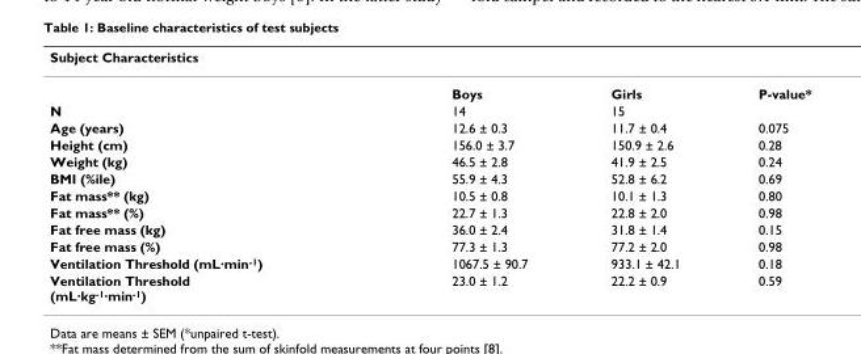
<table><thead><tr><td>Subject Characteristics</td><td></td><td></td><td></td></tr></thead><tbody><tr><td></td><td>Boys</td><td>Girls</td><td>P-value*</td></tr><tr><td>N</td><td>14</td><td>15</td><td></td></tr><tr><td>Age (years)</td><td>12.6 ± 0.3</td><td>11.7 ± 0.4</td><td>0.075</td></tr><tr><td>Height (cm)</td><td>156.0 ± 3.7</td><td>150.9 ± 2.6</td><td>0.28</td></tr><tr><td>Weight (kg)</td><td>46.5 ± 2.8</td><td>41.9 ± 2.5</td><td>0.24</td></tr><tr><td>BMI (%ile)</td><td>55.9 ± 4.3</td><td>52.8 ± 6.2</td><td>0.69</td></tr><tr><td>Fat mass** (kg)</td><td>10.5 ± 0.8</td><td>10.1 ± 1.3</td><td>0.80</td></tr><tr><td>Fat mass** (%)</td><td>22.7 ± 1.3</td><td>22.8 ± 2.0</td><td>0.98</td></tr><tr><td>Fat free mass (kg)</td><td>36.0 ± 2.4</td><td>31.8 ± 1.4</td><td>0.15</td></tr><tr><td>Fat free mass (%)</td><td>77.3 ± 1.3</td><td>77.2 ± 2.0</td><td>0.98</td></tr><tr><td>Ventilation Threshold (mL·min<sup>-1</sup>)</td><td>1067.5 ± 90.7</td><td>933.1 ± 42.1</td><td>0.18</td></tr><tr><td>Ventilation Threshold (mL·kg<sup>-1</sup>·min<sup>-1</sup>)</td><td>23.0 ± 1.2</td><td>22.2 ± 0.9</td><td>0.59</td></tr></tbody></table>